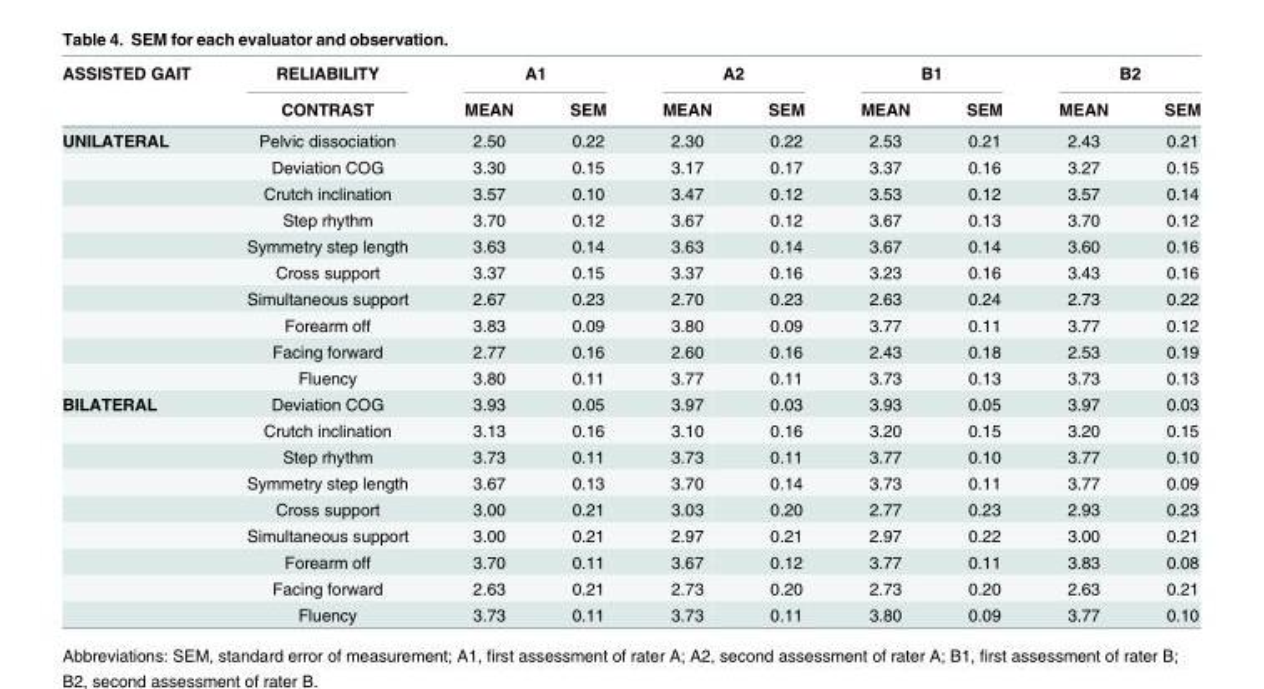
<table><thead><tr><td rowspan="2">ASSISTED GAIT</td><td rowspan="2">RELIABILITY CONTRAST</td><td colspan="2">A1</td><td colspan="2">A2</td><td colspan="2">B1</td><td colspan="2">B2</td></tr><tr><td>MEAN</td><td>SEM</td><td>MEAN</td><td>SEM</td><td>MEAN</td><td>SEM</td><td>MEAN</td><td>SEM</td></tr></thead><tbody><tr><td rowspan="10">UNILATERAL</td><td>Pelvic dissociation</td><td>2.50</td><td>0.22</td><td>2.30</td><td>0.22</td><td>2.53</td><td>0.21</td><td>2.43</td><td>0.21</td></tr><tr><td>Deviation COG</td><td>3.30</td><td>0.15</td><td>3.17</td><td>0.17</td><td>3.37</td><td>0.16</td><td>3.27</td><td>0.15</td></tr><tr><td>Crutch inclination</td><td>3.57</td><td>0.10</td><td>3.47</td><td>0.12</td><td>3.53</td><td>0.12</td><td>3.57</td><td>0.14</td></tr><tr><td>Step rhythm</td><td>3.70</td><td>0.12</td><td>3.67</td><td>0.12</td><td>3.67</td><td>0.13</td><td>3.70</td><td>0.12</td></tr><tr><td>Symmetry step length</td><td>3.63</td><td>0.14</td><td>3.63</td><td>0.14</td><td>3.67</td><td>0.14</td><td>3.60</td><td>0.16</td></tr><tr><td>Cross support</td><td>3.37</td><td>0.15</td><td>3.37</td><td>0.16</td><td>3.23</td><td>0.16</td><td>3.43</td><td>0.16</td></tr><tr><td>Simultaneous support</td><td>2.67</td><td>0.23</td><td>2.70</td><td>0.23</td><td>2.63</td><td>0.24</td><td>2.73</td><td>0.22</td></tr><tr><td>Forearm off</td><td>3.83</td><td>0.09</td><td>3.80</td><td>0.09</td><td>3.77</td><td>0.11</td><td>3.77</td><td>0.12</td></tr><tr><td>Facing forward</td><td>2.77</td><td>0.16</td><td>2.60</td><td>0.16</td><td>2.43</td><td>0.18</td><td>2.53</td><td>0.19</td></tr><tr><td>Fluency</td><td>3.80</td><td>0.11</td><td>3.77</td><td>0.11</td><td>3.73</td><td>0.13</td><td>3.73</td><td>0.13</td></tr><tr><td rowspan="9">BILATERAL</td><td>Deviation COG</td><td>3.93</td><td>0.05</td><td>3.97</td><td>0.03</td><td>3.93</td><td>0.05</td><td>3.97</td><td>0.03</td></tr><tr><td>Crutch inclination</td><td>3.13</td><td>0.16</td><td>3.10</td><td>0.16</td><td>3.20</td><td>0.15</td><td>3.20</td><td>0.15</td></tr><tr><td>Step rhythm</td><td>3.73</td><td>0.11</td><td>3.73</td><td>0.11</td><td>3.77</td><td>0.10</td><td>3.77</td><td>0.10</td></tr><tr><td>Symmetry step length</td><td>3.67</td><td>0.13</td><td>3.70</td><td>0.14</td><td>3.73</td><td>0.11</td><td>3.77</td><td>0.09</td></tr><tr><td>Cross support</td><td>3.00</td><td>0.21</td><td>3.03</td><td>0.20</td><td>2.77</td><td>0.23</td><td>2.93</td><td>0.23</td></tr><tr><td>Simultaneous support</td><td>3.00</td><td>0.21</td><td>2.97</td><td>0.21</td><td>2.97</td><td>0.22</td><td>3.00</td><td>0.21</td></tr><tr><td>Forearm off</td><td>3.70</td><td>0.11</td><td>3.67</td><td>0.12</td><td>3.77</td><td>0.11</td><td>3.83</td><td>0.08</td></tr><tr><td>Facing forward</td><td>2.63</td><td>0.21</td><td>2.73</td><td>0.20</td><td>2.73</td><td>0.20</td><td>2.63</td><td>0.21</td></tr><tr><td>Fluency</td><td>3.73</td><td>0.11</td><td>3.73</td><td>0.11</td><td>3.80</td><td>0.09</td><td>3.77</td><td>0.10</td></tr></tbody></table>